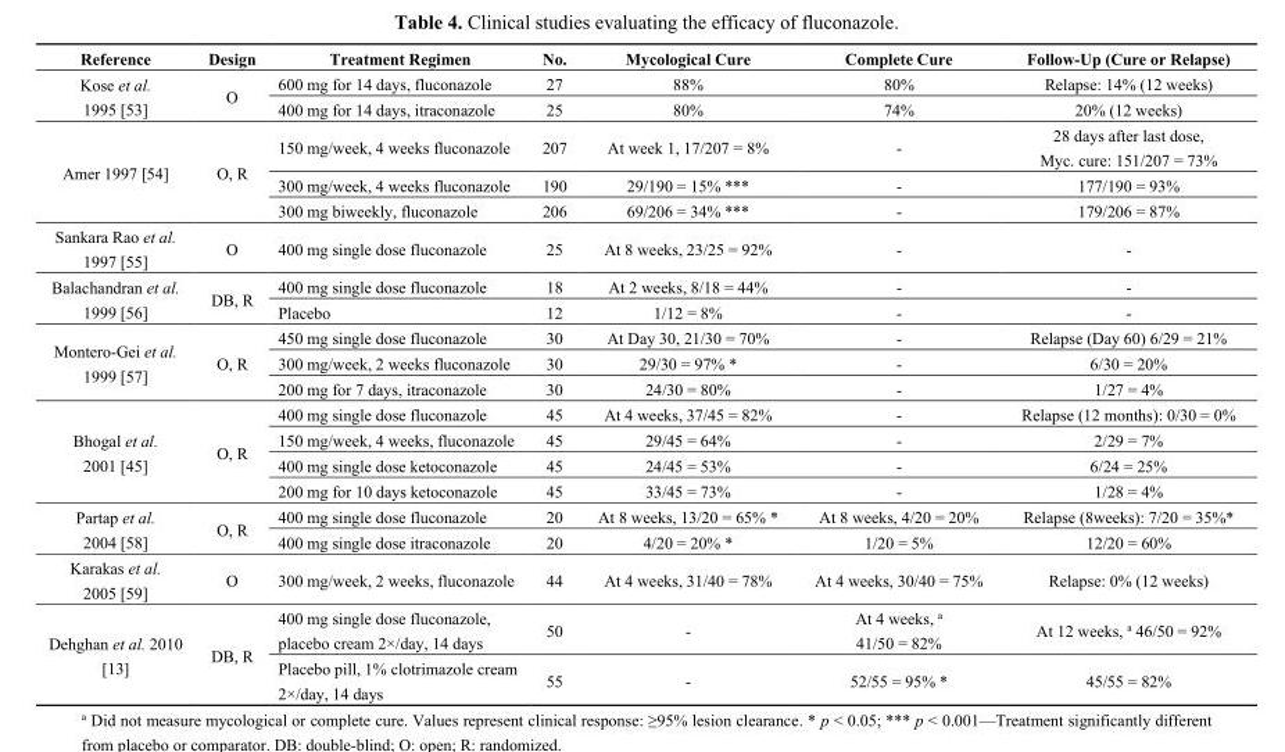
<table><thead><tr><td>Reference</td><td>Design</td><td>Treatment Regimen</td><td>No.</td><td>Mycological Cure</td><td>Complete Cure</td><td>Follow-Up (Cure or Relapse)</td></tr></thead><tbody><tr><td rowspan="2">Kose et al. 1995 [53]</td><td rowspan="2">O</td><td>600 mg for 14 days, fluconazole</td><td>27</td><td>88%</td><td>80%</td><td>Relapse: 14% (12 weeks)</td></tr><tr><td>400 mg for 14 days, itraconazole</td><td>25</td><td>80%</td><td>74%</td><td>20% (12 weeks)</td></tr><tr><td rowspan="3">Amer 1997 [54]</td><td rowspan="3">O, R</td><td>150 mg/week, 4 weeks fluconazole</td><td>207</td><td>At week 1, 17/207 = 8%</td><td>-</td><td>28 days after last dose, Myc. cure: 151/207 = 73%</td></tr><tr><td>300 mg/week, 4 weeks fluconazole</td><td>190</td><td>29/190 = 15% ***</td><td>-</td><td>177/190 = 93%</td></tr><tr><td>300 mg biweekly, fluconazole</td><td>206</td><td>69/206 = 34% ***</td><td>-</td><td>179/206 = 87%</td></tr><tr><td>Sankara Rao et al. 1997 [55]</td><td>O</td><td>400 mg single dose fluconazole</td><td>25</td><td>At 8 weeks, 23/25 = 92%</td><td>-</td><td>-</td></tr><tr><td rowspan="2">Balachandran et al. 1999 [56]</td><td rowspan="2">DB, R</td><td>400 mg single dose fluconazole</td><td>18</td><td>At 2 weeks, 8/18 = 44%</td><td>-</td><td>-</td></tr><tr><td>Placebo</td><td>12</td><td>1/12 = 8%</td><td>-</td><td>-</td></tr><tr><td rowspan="3">Montero-Gei et al. 1999 [57]</td><td rowspan="3">O, R</td><td>450 mg single dose fluconazole</td><td>30</td><td>At Day 30, 21/30 = 70%</td><td>-</td><td>Relapse (Day 60) 6/29 = 21%</td></tr><tr><td>300 mg/week, 2 weeks fluconazole</td><td>30</td><td>29/30 = 97% *</td><td>-</td><td>6/30 = 20%</td></tr><tr><td>200 mg for 7 days, itraconazole</td><td>30</td><td>24/30 = 80%</td><td>-</td><td>1/27 = 4%</td></tr><tr><td rowspan="4">Bhogal et al. 2001 [45]</td><td rowspan="4">O, R</td><td>400 mg single dose fluconazole</td><td>45</td><td>At 4 weeks, 37/45 = 82%</td><td>-</td><td>Relapse (12 months): 0/30 = 0%</td></tr><tr><td>150 mg/week, 4 weeks, fluconazole</td><td>45</td><td>29/45 = 64%</td><td>-</td><td>2/29 = 7%</td></tr><tr><td>400 mg single dose ketoconazole</td><td>45</td><td>24/45 = 53%</td><td>-</td><td>6/24 = 25%</td></tr><tr><td>200 mg for 10 days ketoconazole</td><td>45</td><td>33/45 = 73%</td><td>-</td><td>1/28 = 4%</td></tr><tr><td rowspan="2">Partap et al. 2004 [58]</td><td rowspan="2">O, R</td><td>400 mg single dose fluconazole</td><td>20</td><td>At 8 weeks, 13/20 = 65% *</td><td>At 8 weeks, 4/20 = 20%</td><td>Relapse (8weeks): 7/20 = 35%*</td></tr><tr><td>400 mg single dose itraconazole</td><td>20</td><td>4/20 = 20% *</td><td>1/20 = 5%</td><td>12/20 = 60%</td></tr><tr><td>Karakas et al. 2005 [59]</td><td>O</td><td>300 mg/week, 2 weeks, fluconazole</td><td>44</td><td>At 4 weeks, 31/40 = 78%</td><td>At 4 weeks, 30/40 = 75%</td><td>Relapse: 0% (12 weeks)</td></tr><tr><td rowspan="2">Dehghan et al. 2010 [13]</td><td rowspan="2">DB, R</td><td>400 mg single dose fluconazole, placebo cream 2×/day, 14 days</td><td>50</td><td>-</td><td>At 4 weeks, <sup>a</sup> 41/50 = 82%</td><td>At 12 weeks, <sup>a</sup> 46/50 = 92%</td></tr><tr><td>Placebo pill, 1% clotrimazole cream 2×/day, 14 days</td><td>55</td><td>-</td><td>52/55 = 95% *</td><td>45/55 = 82%</td></tr></tbody></table>